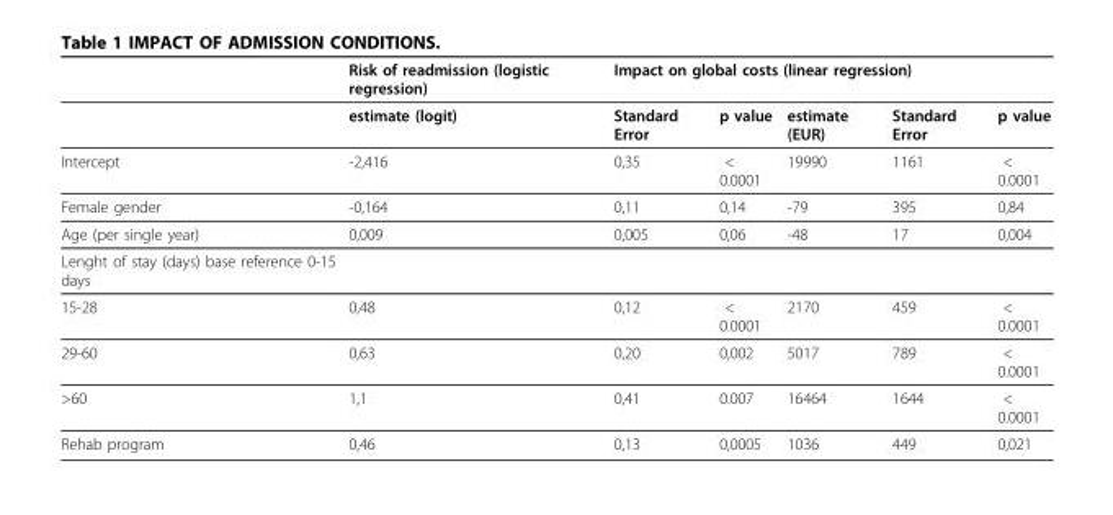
<table><thead><tr><td rowspan="2"></td><td rowspan="2">Risk of readmission (logistic regression) estimate (logit)</td><td colspan="5">Impact on global costs (linear regression)</td></tr><tr><td>Standard Error</td><td>p value</td><td>estimate (EUR)</td><td>Standard Error</td><td>p value</td></tr></thead><tbody><tr><td>Intercept</td><td>-2,416</td><td>0,35</td><td>&lt; 0.0001</td><td>19990</td><td>1161</td><td>&lt; 0.0001</td></tr><tr><td>Female gender</td><td>-0,164</td><td>0,11</td><td>0,14</td><td>-79</td><td>395</td><td>0,84</td></tr><tr><td>Age (per single year)</td><td>0,009</td><td>0,005</td><td>0,06</td><td>-48</td><td>17</td><td>0,004</td></tr><tr><td colspan="7">Lenght of stay (days) base reference 0-15 days</td></tr><tr><td>15-28</td><td>0,48</td><td>0,12</td><td>&lt; 0.0001</td><td>2170</td><td>459</td><td>&lt; 0.0001</td></tr><tr><td>29-60</td><td>0,63</td><td>0,20</td><td>0,002</td><td>5017</td><td>789</td><td>&lt; 0.0001</td></tr><tr><td>&gt;60</td><td>1,1</td><td>0,41</td><td>0.007</td><td>16464</td><td>1644</td><td>&lt; 0.0001</td></tr><tr><td>Rehab program</td><td>0,46</td><td>0,13</td><td>0,0005</td><td>1036</td><td>449</td><td>0,021</td></tr></tbody></table>